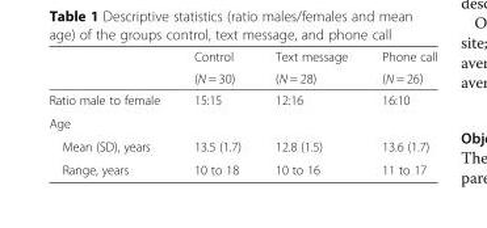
<table><thead><tr><td rowspan="2"></td><td rowspan="2">Control (N = 30)</td><td rowspan="2">Text message (N = 28)</td><td rowspan="2">Phone call (N = 26)</td></tr><tr></tr></thead><tbody><tr><td>Ratio male to female</td><td>15:15</td><td>12:16</td><td>16:10</td></tr><tr><td colspan="4">Age</td></tr><tr><td>Mean (SD), years</td><td>13.5 (1.7)</td><td>12.8 (1.5)</td><td>13.6 (1.7)</td></tr><tr><td>Range, years</td><td>10 to 18</td><td>10 to 16</td><td>11 to 17</td></tr></tbody></table>